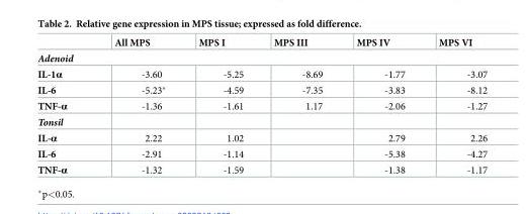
<table><thead><tr><td></td><td>All MPS</td><td>MPS I</td><td>MPS III</td><td>MPS IV</td><td>MPS VI</td></tr></thead><tbody><tr><td colspan="6">Adenoid</td></tr><tr><td>IL-1α</td><td>-3.60</td><td>-5.25</td><td>-8.69</td><td>-1.77</td><td>-3.07</td></tr><tr><td>IL-6</td><td>-5.23*</td><td>-4.59</td><td>-7.35</td><td>-3.83</td><td>-8.12</td></tr><tr><td>TNF-α</td><td>-1.36</td><td>-1.61</td><td>1.17</td><td>-2.06</td><td>-1.27</td></tr><tr><td colspan="6">Tonsil</td></tr><tr><td>IL-α</td><td>2.22</td><td>1.02</td><td></td><td>2.79</td><td>2.26</td></tr><tr><td>IL-6</td><td>-2.91</td><td>-1.14</td><td></td><td>-5.38</td><td>-4.27</td></tr><tr><td>TNF-α</td><td>-1.32</td><td>-1.59</td><td></td><td>-1.38</td><td>-1.17</td></tr></tbody></table>